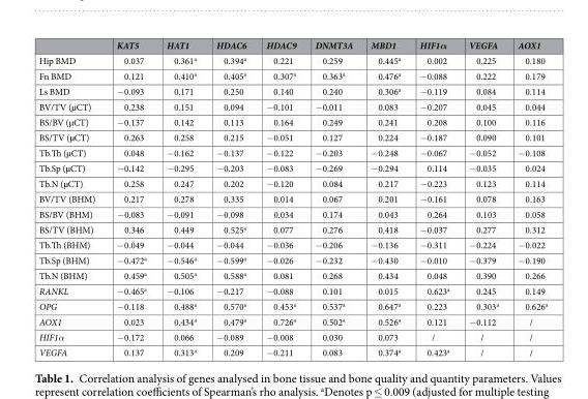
<table><thead><tr><td></td><td>KAT5</td><td>HAT1</td><td>HDAC6</td><td>HDAC9</td><td>DNMT3A</td><td>MBD1</td><td>HIF1α</td><td>VEGFA</td><td>AOX1</td></tr></thead><tbody><tr><td>Hip BMD</td><td>0.037</td><td>0.361<sup>a</sup></td><td>0.394<sup>a</sup></td><td>0.221</td><td>0.259</td><td>0.445<sup>a</sup></td><td>0.002</td><td>0.225</td><td>0.180</td></tr><tr><td>Fn BMD</td><td>0.121</td><td>0.410<sup>a</sup></td><td>0.405<sup>a</sup></td><td>0.307<sup>a</sup></td><td>0.363<sup>a</sup></td><td>0.476<sup>a</sup></td><td>−0.088</td><td>0.222</td><td>0.179</td></tr><tr><td>Ls BMD</td><td>−0.093</td><td>0.171</td><td>0.250</td><td>0.140</td><td>0.240</td><td>0.306<sup>a</sup></td><td>−0.119</td><td>0.084</td><td>0.114</td></tr><tr><td>BV/TV (µCT)</td><td>0.238</td><td>0.151</td><td>0.094</td><td>−0.101</td><td>−0.011</td><td>0.083</td><td>−0.207</td><td>0.045</td><td>0.044</td></tr><tr><td>BS/BV (µCT)</td><td>−0.137</td><td>0.142</td><td>0.113</td><td>0.164</td><td>0.249</td><td>0.241</td><td>0.208</td><td>0.100</td><td>0.116</td></tr><tr><td>BS/TV (µCT)</td><td>0.263</td><td>0.258</td><td>0.215</td><td>−0.051</td><td>0.127</td><td>0.224</td><td>−0.187</td><td>0.090</td><td>0.101</td></tr><tr><td>Tb.Th (µCT)</td><td>0.048</td><td>−0.162</td><td>−0.137</td><td>−0.122</td><td>−0.203</td><td>−0.248</td><td>−0.067</td><td>−0.052</td><td>−0.108</td></tr><tr><td>Tb.Sp (µCT)</td><td>−0.142</td><td>−0.295</td><td>−0.203</td><td>−0.083</td><td>−0.269</td><td>−0.294</td><td>0.114</td><td>−0.035</td><td>0.024</td></tr><tr><td>Tb.N (µCT)</td><td>0.258</td><td>0.247</td><td>0.202</td><td>−0.120</td><td>0.084</td><td>0.217</td><td>−0.223</td><td>0.123</td><td>0.114</td></tr><tr><td>BV/TV (BHM)</td><td>0.217</td><td>0.278</td><td>0.335</td><td>0.014</td><td>0.067</td><td>0.201</td><td>−0.161</td><td>0.078</td><td>0.163</td></tr><tr><td>BS/BV (BHM)</td><td>−0.083</td><td>−0.091</td><td>−0.098</td><td>0.034</td><td>0.174</td><td>0.043</td><td>0.264</td><td>0.103</td><td>0.058</td></tr><tr><td>BS/TV (BHM)</td><td>0.346</td><td>0.449</td><td>0.525<sup>a</sup></td><td>0.077</td><td>0.276</td><td>0.418</td><td>−0.037</td><td>0.277</td><td>0.312</td></tr><tr><td>Tb.Th (BHM)</td><td>−0.049</td><td>−0.044</td><td>−0.044</td><td>−0.036</td><td>−0.206</td><td>−0.136</td><td>−0.311</td><td>−0.224</td><td>−0.022</td></tr><tr><td>Tb.Sp (BHM)</td><td>−0.472<sup>a</sup></td><td>−0.546<sup>a</sup></td><td>−0.599<sup>a</sup></td><td>−0.026</td><td>−0.232</td><td>−0.430</td><td>−0.010</td><td>−0.379</td><td>−0.190</td></tr><tr><td>Tb.N (BHM)</td><td>0.459<sup>a</sup></td><td>0.505<sup>a</sup></td><td>0.588<sup>a</sup></td><td>0.081</td><td>0.268</td><td>0.434</td><td>0.048</td><td>0.390</td><td>0.266</td></tr><tr><td>RANKL</td><td>−0.465<sup>a</sup></td><td>−0.106</td><td>−0.217</td><td>−0.088</td><td>0.101</td><td>0.015</td><td>0.623<sup>a</sup></td><td>0.245</td><td>0.149</td></tr><tr><td>OPG</td><td>−0.118</td><td>0.488<sup>a</sup></td><td>0.570<sup>a</sup></td><td>0.453<sup>a</sup></td><td>0.537<sup>a</sup></td><td>0.647<sup>a</sup></td><td>0.223</td><td>0.303<sup>a</sup></td><td>0.626<sup>a</sup></td></tr><tr><td>AOX1</td><td>0.023</td><td>0.434<sup>a</sup></td><td>0.479<sup>a</sup></td><td>0.726<sup>a</sup></td><td>0.502<sup>a</sup></td><td>0.526<sup>a</sup></td><td>0.121</td><td>−0.112</td><td>/</td></tr><tr><td>HIF1α</td><td>−0.172</td><td>0.066</td><td>−0.089</td><td>−0.008</td><td>0.030</td><td>0.073</td><td>/</td><td>/</td><td>/</td></tr><tr><td>VEGFA</td><td>0.137</td><td>0.313<sup>a</sup></td><td>0.209</td><td>−0.211</td><td>0.083</td><td>0.374<sup>a</sup></td><td>0.423<sup>a</sup></td><td>/</td><td>/</td></tr></tbody></table>